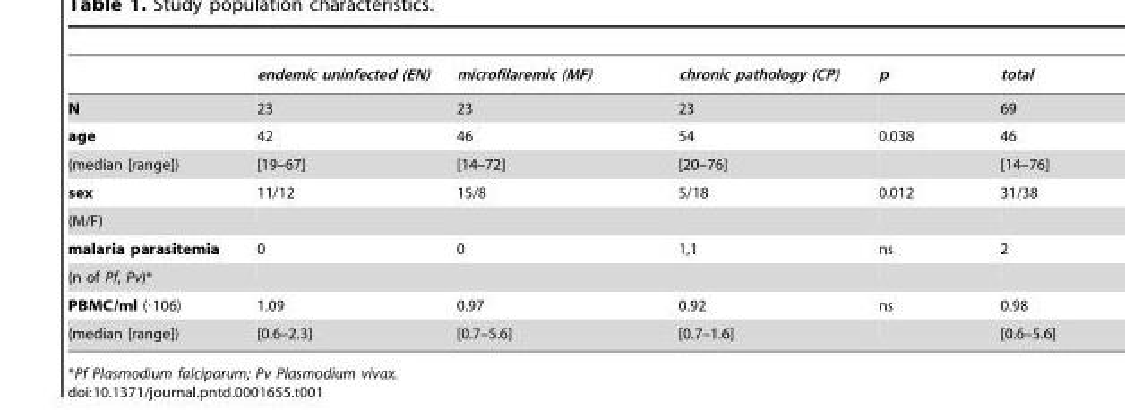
<table><thead><tr><td></td><td>endemic uninfected (EN)</td><td>microfilaremic (MF)</td><td>chronic pathology (CP)</td><td>p</td><td>total</td></tr></thead><tbody><tr><td>N</td><td>23</td><td>23</td><td>23</td><td></td><td>69</td></tr><tr><td>age</td><td>42</td><td>46</td><td>54</td><td>0.038</td><td>46</td></tr><tr><td>(median [range])</td><td>[19–67]</td><td>[14–72]</td><td>[20–76]</td><td></td><td>[14–76]</td></tr><tr><td>sex</td><td>11/12</td><td>15/8</td><td>5/18</td><td>0.012</td><td>31/38</td></tr><tr><td colspan="6">(M/F)</td></tr><tr><td>malaria parasitemia</td><td>0</td><td>0</td><td>1,1</td><td>ns</td><td>2</td></tr><tr><td colspan="6">(n of Pf, Pv)*</td></tr><tr><td>PBMC/ml (·106)</td><td>1.09</td><td>0.97</td><td>0.92</td><td>ns</td><td>0.98</td></tr><tr><td>(median [range])</td><td>[0.6–2.3]</td><td>[0.7–5.6]</td><td>[0.7–1.6]</td><td></td><td>[0.6–5.6]</td></tr></tbody></table>